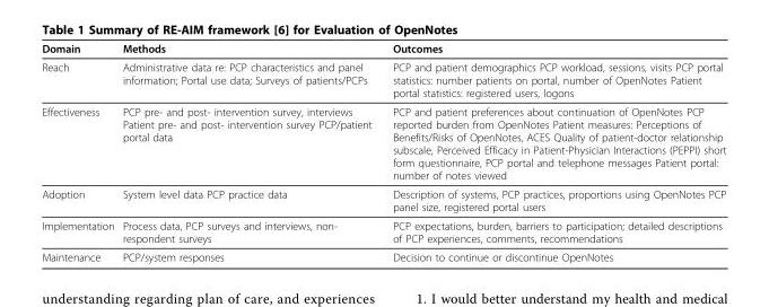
<table><thead><tr><td>Domain</td><td>Methods</td><td>Outcomes</td></tr></thead><tbody><tr><td>Reach</td><td>Administrative data re: PCP characteristics and panel information; Portal use data; Surveys of patients/PCPs</td><td>PCP and patient demographics PCP workload, sessions, visits PCP portal statistics: number patients on portal, number of OpenNotes Patient portal statistics: registered users, logons</td></tr><tr><td>Effectiveness</td><td>PCP pre- and post- intervention survey, interviews Patient pre- and post- intervention survey PCP/patient portal data</td><td>PCP and patient preferences about continuation of OpenNotes PCP reported burden from OpenNotes Patient measures: Perceptions of Benefits/Risks of OpenNotes, ACES Quality of patient-doctor relationship subscale, Perceived Efficacy in Patient-Physician Interactions (PEPPI) short form questionnaire, PCP portal and telephone messages Patient portal: number of notes viewed</td></tr><tr><td>Adoption</td><td>System level data PCP practice data</td><td>Description of systems, PCP practices, proportions using OpenNotes PCP panel size, registered portal users</td></tr><tr><td>Implementation</td><td>Process data, PCP surveys and interviews, non- respondent surveys</td><td>PCP expectations, burden, barriers to participation; detailed descriptions of PCP experiences, comments, recommendations</td></tr><tr><td>Maintenance</td><td>PCP/system responses</td><td>Decision to continue or discontinue OpenNotes</td></tr></tbody></table>